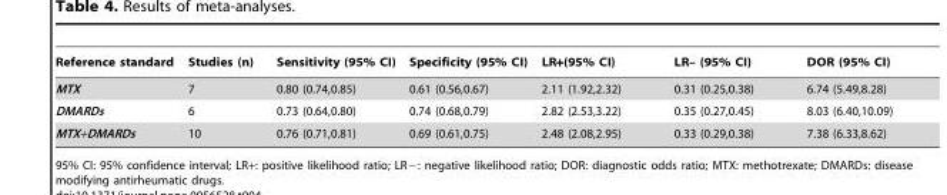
<table><thead><tr><td>Reference standard</td><td>Studies (n)</td><td>Sensitivity (95% CI)</td><td>Specificity (95% CI)</td><td>LR+(95% CI)</td><td>LR– (95% CI)</td><td>DOR (95% CI)</td></tr></thead><tbody><tr><td>MTX</td><td>7</td><td>0.80 (0.74,0.85)</td><td>0.61 (0.56,0.67)</td><td>2.11 (1.92,2.32)</td><td>0.31 (0.25,0.38)</td><td>6.74 (5.49,8.28)</td></tr><tr><td>DMARDs</td><td>6</td><td>0.73 (0.64,0.80)</td><td>0.74 (0.68,0.79)</td><td>2.82 (2.53,3.22)</td><td>0.35 (0.27,0.45)</td><td>8.03 (6.40,10.09)</td></tr><tr><td>MTX+DMARDs</td><td>10</td><td>0.76 (0.71,0.81)</td><td>0.69 (0.61,0.75)</td><td>2.48 (2.08,2.95)</td><td>0.33 (0.29,0.38)</td><td>7.38 (6.33,8.62)</td></tr></tbody></table>